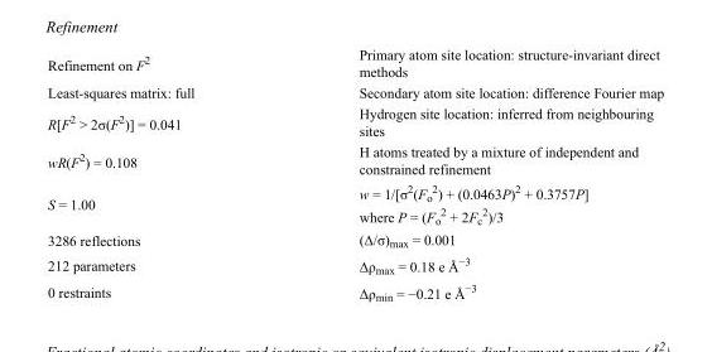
<table><tbody><tr><td>Refinement on F<sup>2</sup></td><td>Primary atom site location: structure-invariant direct methods</td></tr><tr><td>Least-squares matrix: full</td><td>Secondary atom site location: difference Fourier map</td></tr><tr><td>R[F<sup>2</sup> &gt; 2σ(F<sup>2</sup>)] = 0.041</td><td>Hydrogen site location: inferred from neighbouring sites</td></tr><tr><td>wR(F<sup>2</sup>) = 0.108</td><td>H atoms treated by a mixture of independent and constrained refinement</td></tr><tr><td>S = 1.00</td><td>w = 1/[σ<sup>2</sup>(F<sub>o</sub> <sup>2</sup>) + (0.0463P)<sup>2</sup> + 0.3757P] where P = (F<sub>o</sub> <sup>2</sup> + 2F<sub>c</sub> <sup>2</sup>)/3</td></tr><tr><td>3286 reflections</td><td>(Δ/σ)<sub>max</sub> = 0.001</td></tr><tr><td>212 parameters</td><td>Δρ<sub>max</sub> = 0.18 e Å<sup>−3</sup></td></tr><tr><td>0 restraints</td><td>Δρ<sub>min</sub> = −0.21 e Å<sup>−3</sup></td></tr></tbody></table>